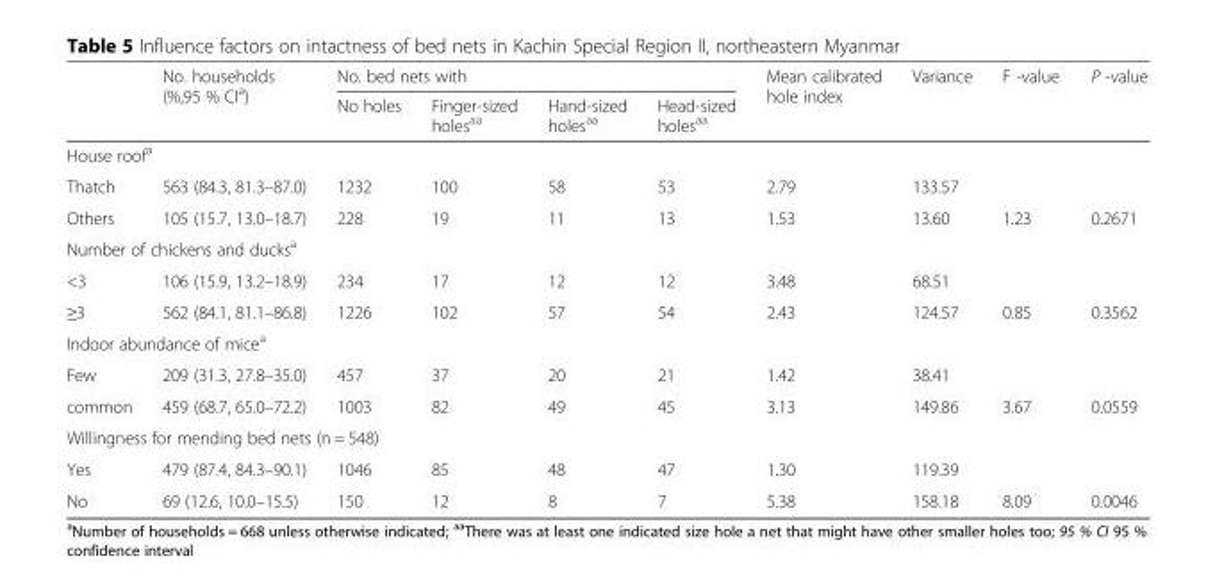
<table><thead><tr><td rowspan="2"></td><td rowspan="2">No. households (%,95 % CI<sup>a</sup>)</td><td colspan="4">No. bed nets with</td><td rowspan="2">Mean calibrated hole index</td><td rowspan="2">Variance</td><td rowspan="2">F -value</td><td rowspan="2">P -value</td></tr><tr><td>No holes</td><td>Finger-sized holes<sup>aa</sup></td><td>Hand-sized holes<sup>aa</sup></td><td>Head-sized holes<sup>aa</sup></td></tr></thead><tbody><tr><td colspan="10">House roof<sup>a</sup></td></tr><tr><td>Thatch</td><td>563 (84.3, 81.3–87.0)</td><td>1232</td><td>100</td><td>58</td><td>53</td><td>2.79</td><td>133.57</td><td></td><td></td></tr><tr><td>Others</td><td>105 (15.7, 13.0–18.7)</td><td>228</td><td>19</td><td>11</td><td>13</td><td>1.53</td><td>13.60</td><td>1.23</td><td>0.2671</td></tr><tr><td colspan="10">Number of chickens and ducks<sup>a</sup></td></tr><tr><td>&lt;3</td><td>106 (15.9, 13.2–18.9)</td><td>234</td><td>17</td><td>12</td><td>12</td><td>3.48</td><td>68.51</td><td></td><td></td></tr><tr><td>≥3</td><td>562 (84.1, 81.1–86.8)</td><td>1226</td><td>102</td><td>57</td><td>54</td><td>2.43</td><td>124.57</td><td>0.85</td><td>0.3562</td></tr><tr><td colspan="10">Indoor abundance of mice<sup>a</sup></td></tr><tr><td>Few</td><td>209 (31.3, 27.8–35.0)</td><td>457</td><td>37</td><td>20</td><td>21</td><td>1.42</td><td>38.41</td><td></td><td></td></tr><tr><td>common</td><td>459 (68.7, 65.0–72.2)</td><td>1003</td><td>82</td><td>49</td><td>45</td><td>3.13</td><td>149.86</td><td>3.67</td><td>0.0559</td></tr><tr><td colspan="10">Willingness for mending bed nets (n = 548)</td></tr><tr><td>Yes</td><td>479 (87.4, 84.3–90.1)</td><td>1046</td><td>85</td><td>48</td><td>47</td><td>1.30</td><td>119.39</td><td></td><td></td></tr><tr><td>No</td><td>69 (12.6, 10.0–15.5)</td><td>150</td><td>12</td><td>8</td><td>7</td><td>5.38</td><td>158.18</td><td>8.09</td><td>0.0046</td></tr></tbody></table>